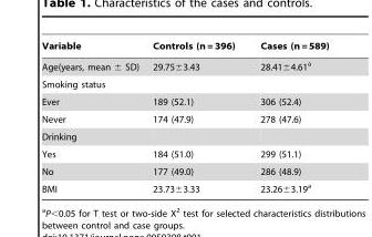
<table><thead><tr><td>Variable</td><td>Controls (n = 396)</td><td>Cases (n = 589)</td></tr></thead><tbody><tr><td>Age(years, mean ± SD)</td><td>29.75±3.43</td><td>28.41±4.61<sup>a</sup></td></tr><tr><td colspan="3">Smoking status</td></tr><tr><td>Ever</td><td>189 (52.1)</td><td>306 (52.4)</td></tr><tr><td>Never</td><td>174 (47.9)</td><td>278 (47.6)</td></tr><tr><td colspan="3">Drinking</td></tr><tr><td>Yes</td><td>184 (51.0)</td><td>299 (51.1)</td></tr><tr><td>No</td><td>177 (49.0)</td><td>286 (48.9)</td></tr><tr><td>BMI</td><td>23.73±3.33</td><td>23.26±3.19<sup>a</sup></td></tr></tbody></table>